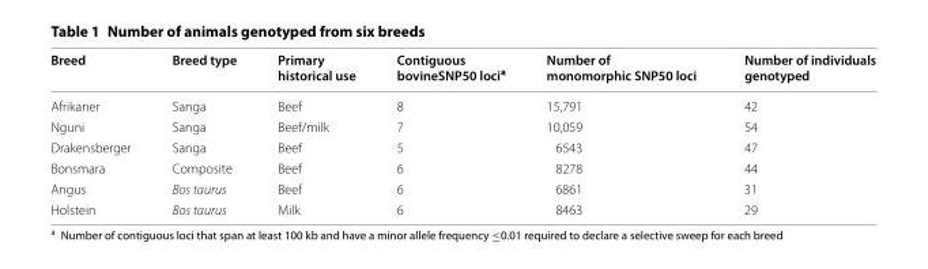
<table><thead><tr><td>Breed</td><td>Breed type</td><td>Primary historical use</td><td>Contiguous bovineSNP50 loci<sup>a</sup></td><td>Number of monomorphic SNP50 loci</td><td>Number of individuals genotyped</td></tr></thead><tbody><tr><td>Afrikaner</td><td>Sanga</td><td>Beef</td><td>8</td><td>15,791</td><td>42</td></tr><tr><td>Nguni</td><td>Sanga</td><td>Beef/milk</td><td>7</td><td>10,059</td><td>54</td></tr><tr><td>Drakensberger</td><td>Sanga</td><td>Beef</td><td>5</td><td>6543</td><td>47</td></tr><tr><td>Bonsmara</td><td>Composite</td><td>Beef</td><td>6</td><td>8278</td><td>44</td></tr><tr><td>Angus</td><td>Bos taurus</td><td>Beef</td><td>6</td><td>6861</td><td>31</td></tr><tr><td>Holstein</td><td>Bos taurus</td><td>Milk</td><td>6</td><td>8463</td><td>29</td></tr></tbody></table>